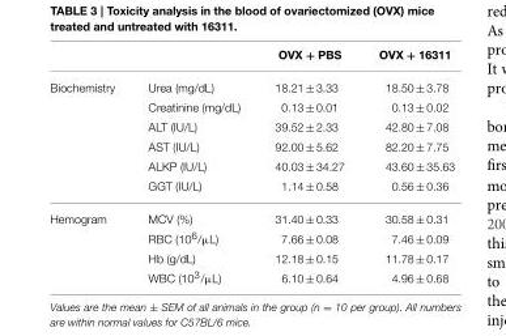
<table><thead><tr><td></td><td></td><td>OVX + PBS</td><td>OVX + 16311</td></tr></thead><tbody><tr><td rowspan="6">Biochemistry</td><td>Urea (mg/dL)</td><td>18.21 ± 3.33</td><td>18.50 ± 3.78</td></tr><tr><td>Creatinine (mg/dL)</td><td>0.13 ± 0.01</td><td>0.13 ± 0.02</td></tr><tr><td>ALT (IU/L)</td><td>39.52 ± 2.33</td><td>42.80 ± 7.08</td></tr><tr><td>AST (IU/L)</td><td>92.00 ± 5.62</td><td>82.20 ± 7.75</td></tr><tr><td>ALKP (IU/L)</td><td>40.03 ± 34.27</td><td>43.60 ± 35.63</td></tr><tr><td>GGT (IU/L)</td><td>1.14 ± 0.58</td><td>0.56 ± 0.36</td></tr><tr><td rowspan="4">Hemogram</td><td>MCV (%)</td><td>31.40 ± 0.33</td><td>30.58 ± 0.31</td></tr><tr><td>RBC (10<sup>6</sup>/µL)</td><td>7.66 ± 0.08</td><td>7.46 ± 0.09</td></tr><tr><td>Hb (g/dL)</td><td>12.18 ± 0.15</td><td>11.78 ± 0.17</td></tr><tr><td>WBC (10<sup>3</sup>/µL)</td><td>6.10 ± 0.64</td><td>4.96 ± 0.68</td></tr></tbody></table>